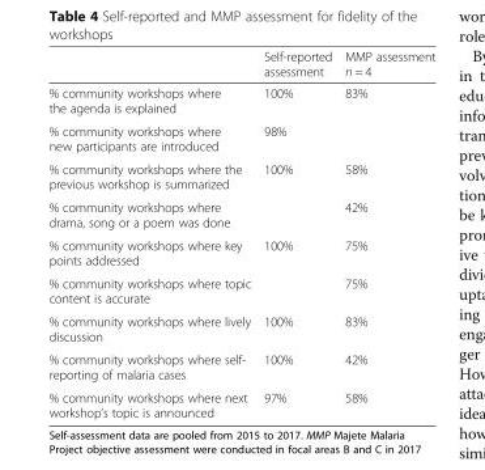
<table><thead><tr><td></td><td>Self-reported assessment</td><td>MMP assessment n = 4</td></tr></thead><tbody><tr><td>% community workshops where the agenda is explained</td><td>100%</td><td>83%</td></tr><tr><td>% community workshops where new participants are introduced</td><td>98%</td><td></td></tr><tr><td>% community workshops where the previous workshop is summarized</td><td>100%</td><td>58%</td></tr><tr><td>% community workshops where drama, song or a poem was done</td><td></td><td>42%</td></tr><tr><td>% community workshops where key points addressed</td><td>100%</td><td>75%</td></tr><tr><td>% community workshops where topic content is accurate</td><td></td><td>75%</td></tr><tr><td>% community workshops where lively discussion</td><td>100%</td><td>83%</td></tr><tr><td>% community workshops where self- reporting of malaria cases</td><td>100%</td><td>42%</td></tr><tr><td>% community workshops where next workshop’s topic is announced</td><td>97%</td><td>58%</td></tr></tbody></table>